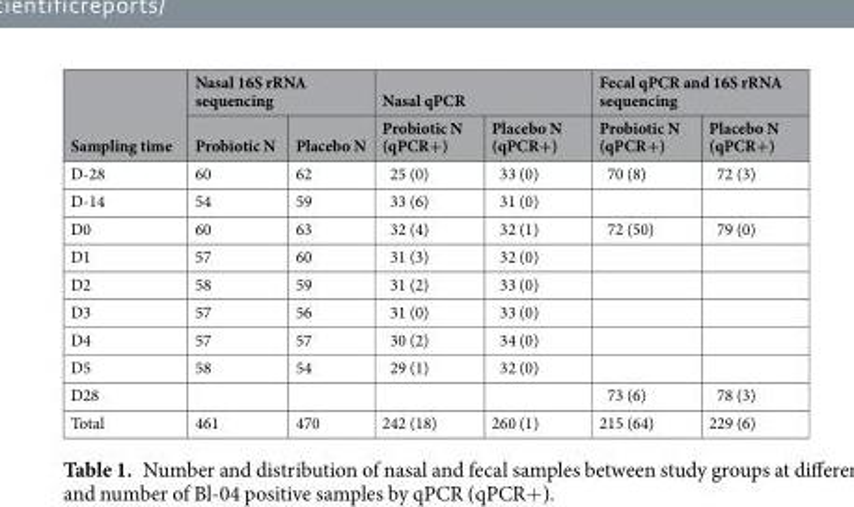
<table><thead><tr><td rowspan="2">Sampling time</td><td colspan="2">Nasal 16S rRNA sequencing</td><td colspan="2">Nasal qPCR</td><td colspan="2">Fecal qPCR and 16S rRNA sequencing</td></tr><tr><td>Probiotic N</td><td>Placebo N</td><td>Probiotic N (qPCR+)</td><td>Placebo N (qPCR+)</td><td>Probiotic N (qPCR+)</td><td>Placebo N (qPCR+)</td></tr></thead><tbody><tr><td>D-28</td><td>60</td><td>62</td><td>25 (0)</td><td>33 (0)</td><td>70 (8)</td><td>72 (3)</td></tr><tr><td>D-14</td><td>54</td><td>59</td><td>33 (6)</td><td>31 (0)</td><td></td><td></td></tr><tr><td>D0</td><td>60</td><td>63</td><td>32 (4)</td><td>32 (1)</td><td>72 (50)</td><td>79 (0)</td></tr><tr><td>D1</td><td>57</td><td>60</td><td>31 (3)</td><td>32 (0)</td><td></td><td></td></tr><tr><td>D2</td><td>58</td><td>59</td><td>31 (2)</td><td>33 (0)</td><td></td><td></td></tr><tr><td>D3</td><td>57</td><td>56</td><td>31 (0)</td><td>33 (0)</td><td></td><td></td></tr><tr><td>D4</td><td>57</td><td>57</td><td>30 (2)</td><td>34 (0)</td><td></td><td></td></tr><tr><td>D5</td><td>58</td><td>54</td><td>29 (1)</td><td>32 (0)</td><td></td><td></td></tr><tr><td>D28</td><td></td><td></td><td></td><td></td><td>73 (6)</td><td>78 (3)</td></tr><tr><td>Total</td><td>461</td><td>470</td><td>242 (18)</td><td>260 (1)</td><td>215 (64)</td><td>229 (6)</td></tr></tbody></table>